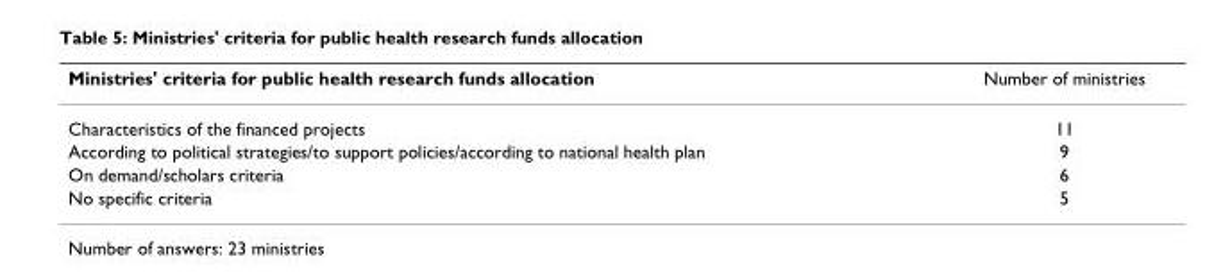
<table><thead><tr><td>Ministries&#x27; criteria for public health research funds allocation</td><td>Number of ministries</td></tr></thead><tbody><tr><td>Characteristics of the financed projects</td><td>11</td></tr><tr><td>According to political strategies/to support policies/according to national health plan</td><td>9</td></tr><tr><td>On demand/scholars criteria</td><td>6</td></tr><tr><td>No specific criteria</td><td>5</td></tr></tbody></table>